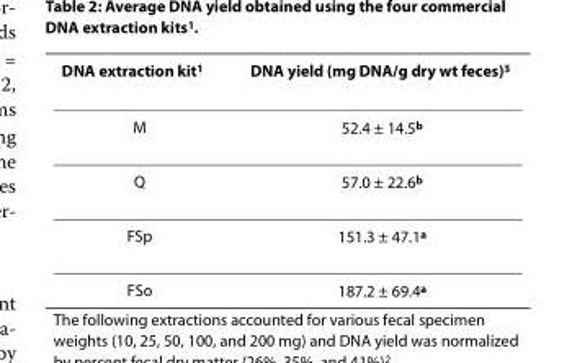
<table><thead><tr><td>DNA extraction kit<sup>1</sup></td><td>DNA yield (mg DNA/g dry wt feces)<sup>3</sup></td></tr></thead><tbody><tr><td>M</td><td>52.4 ± 14.5<sup>b</sup></td></tr><tr><td>Q</td><td>57.0 ± 22.6<sup>b</sup></td></tr><tr><td>FSp</td><td>151.3 ± 47.1<sup>a</sup></td></tr><tr><td>FSo</td><td>187.2 ± 69.4<sup>a</sup></td></tr></tbody></table>